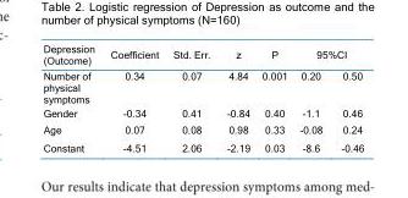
<table><thead><tr><td rowspan="2">Depression (Outcome) Number of physical symptoms</td><td rowspan="2">Coefficient 0.34</td><td rowspan="2">Std. Err. 0.07</td><td rowspan="2">z 4.84</td><td rowspan="2">P 0.001</td><td colspan="2">95%CI</td></tr><tr><td>0.20</td><td>0.50</td></tr></thead><tbody><tr><td>Gender</td><td>-0.34</td><td>0.41</td><td>-0.84</td><td>0.40</td><td>-1.1</td><td>0.46</td></tr><tr><td>Age</td><td>0.07</td><td>0.08</td><td>0.98</td><td>0.33</td><td>-0.08</td><td>0.24</td></tr><tr><td>Constant</td><td>-4.51</td><td>2.06</td><td>-2.19</td><td>0.03</td><td>-8.6</td><td>-0.46</td></tr></tbody></table>